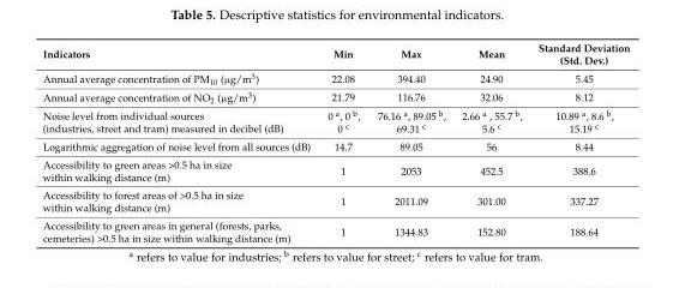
<table><thead><tr><td>Indicators</td><td>Min</td><td>Max</td><td>Mean</td><td>Standard Deviation (Std. Dev.)</td></tr></thead><tbody><tr><td>Annual average concentration of PM<sub>10</sub> (µg/m<sup>3</sup>)</td><td>22.08</td><td>394.40</td><td>24.90</td><td>5.45</td></tr><tr><td>Annual average concentration of NO<sub>2</sub> (µg/m<sup>3</sup>)</td><td>21.79</td><td>116.76</td><td>32.06</td><td>8.12</td></tr><tr><td>Noise level from individual sources (industries, street and tram) measured in decibel (dB)</td><td>0 <sup>a</sup>, 0 <sup>b</sup>, 0 <sup>c</sup></td><td>76.16 <sup>a</sup>, 89.05 <sup>b</sup>, 69.31 <sup>c</sup></td><td>2.66 <sup>a</sup> , 55.7 <sup>b</sup>, 5.6 <sup>c</sup></td><td>10.89 <sup>a</sup>, 8.6 <sup>b</sup>, 15.19 <sup>c</sup></td></tr><tr><td>Logarithmic aggregation of noise level from all sources (dB)</td><td>14.7</td><td>89.05</td><td>56</td><td>8.44</td></tr><tr><td>Accessibility to green areas &gt;0.5 ha in size within walking distance (m)</td><td>1</td><td>2053</td><td>452.5</td><td>388.6</td></tr><tr><td>Accessibility to forest areas of &gt;0.5 ha in size within walking distance (m)</td><td>1</td><td>2011.09</td><td>301.00</td><td>337.27</td></tr><tr><td>Accessibility to green areas in general (forests, parks, cemeteries) &gt;0.5 ha in size within walking distance (m)</td><td>1</td><td>1344.83</td><td>152.80</td><td>188.64</td></tr></tbody></table>